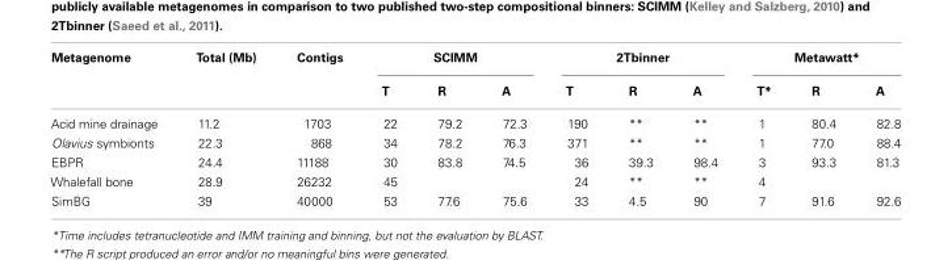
<table><thead><tr><td rowspan="2">Metagenome</td><td rowspan="2">Total (Mb)</td><td rowspan="2">Contigs</td><td colspan="3">SCIMM</td><td colspan="3">2Tbinner</td><td colspan="3">Metawatt*</td></tr><tr><td>T</td><td>R</td><td>A</td><td>T</td><td>R</td><td>A</td><td>T*</td><td>R</td><td>A</td></tr></thead><tbody><tr><td>Acid mine drainage</td><td>11.2</td><td>1703</td><td>22</td><td>79.2</td><td>72.3</td><td>190</td><td>**</td><td>**</td><td>1</td><td>80.4</td><td>82.8</td></tr><tr><td>Olavius symbionts</td><td>22.3</td><td>868</td><td>34</td><td>78.2</td><td>76.3</td><td>371</td><td>**</td><td>**</td><td>1</td><td>77.0</td><td>88.4</td></tr><tr><td>EBPR</td><td>24.4</td><td>11188</td><td>30</td><td>83.8</td><td>74.5</td><td>36</td><td>39.3</td><td>98.4</td><td>3</td><td>93.3</td><td>81.3</td></tr><tr><td>Whalefall bone</td><td>28.9</td><td>26232</td><td>45</td><td></td><td></td><td>24</td><td>**</td><td>**</td><td>4</td><td></td><td></td></tr><tr><td>SimBG</td><td>39</td><td>40000</td><td>53</td><td>77.6</td><td>75.6</td><td>33</td><td>4.5</td><td>90</td><td>7</td><td>91.6</td><td>92.6</td></tr></tbody></table>